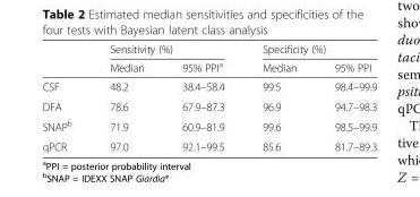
<table><thead><tr><td rowspan="2"></td><td colspan="2">Sensitivity (%)</td><td colspan="2">Specificity (%)</td></tr><tr><td>Median</td><td>95% PPI<sup>a</sup></td><td>Median</td><td>95% PPI</td></tr></thead><tbody><tr><td>CSF</td><td>48.2</td><td>38.4–58.4</td><td>99.5</td><td>98.4–99.9</td></tr><tr><td>DFA</td><td>78.6</td><td>67.9–87.3</td><td>96.9</td><td>94.7–98.3</td></tr><tr><td>SNAP<sup>b</sup></td><td>71.9</td><td>60.9–81.9</td><td>99.6</td><td>98.5–99.9</td></tr><tr><td>qPCR</td><td>97.0</td><td>92.1–99.5</td><td>85.6</td><td>81.7–89.3</td></tr></tbody></table>